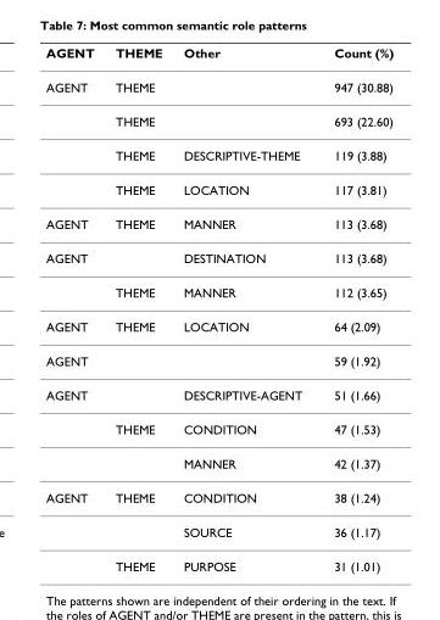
<table><thead><tr><td>AGENT</td><td>THEME</td><td>Other</td><td>Count (%)</td></tr></thead><tbody><tr><td rowspan="4">AGENT</td><td>THEME</td><td></td><td>947 (30.88)</td></tr><tr><td>THEME</td><td></td><td>693 (22.60)</td></tr><tr><td>THEME</td><td>DESCRIPTIVE-THEME</td><td>119 (3.88)</td></tr><tr><td>THEME</td><td>LOCATION</td><td>117 (3.81)</td></tr><tr><td>AGENT</td><td>THEME</td><td>MANNER</td><td>113 (3.68)</td></tr><tr><td rowspan="2">AGENT</td><td></td><td>DESTINATION</td><td>113 (3.68)</td></tr><tr><td>THEME</td><td>MANNER</td><td>112 (3.65)</td></tr><tr><td>AGENT</td><td>THEME</td><td>LOCATION</td><td>64 (2.09)</td></tr><tr><td>AGENT</td><td></td><td></td><td>59 (1.92)</td></tr><tr><td rowspan="3">AGENT</td><td></td><td>DESCRIPTIVE-AGENT</td><td>51 (1.66)</td></tr><tr><td>THEME</td><td>CONDITION</td><td>47 (1.53)</td></tr><tr><td></td><td>MANNER</td><td>42 (1.37)</td></tr><tr><td rowspan="3">AGENT</td><td>THEME</td><td>CONDITION</td><td>38 (1.24)</td></tr><tr><td></td><td>SOURCE</td><td>36 (1.17)</td></tr><tr><td>THEME</td><td>PURPOSE</td><td>31 (1.01)</td></tr></tbody></table>